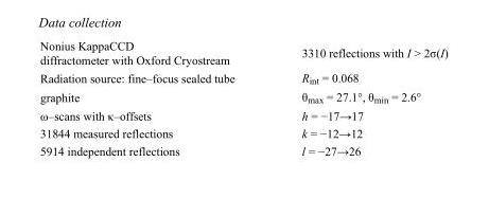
<table><tbody><tr><td>Nonius KappaCCD diffractometer with Oxford Cryostream</td><td>3310 reflections with I &gt; 2σ(I)</td></tr><tr><td>Radiation source: fine–focus sealed tube</td><td>R<sub>int</sub> = 0.068</td></tr><tr><td>graphite</td><td>θ<sub>max</sub> = 27.1°, θ<sub>min</sub> = 2.6°</td></tr><tr><td>ω–scans with κ–offsets</td><td>h = −17→17</td></tr><tr><td>31844 measured reflections</td><td>k = −12→12</td></tr><tr><td>5914 independent reflections</td><td>l = −27→26</td></tr></tbody></table>